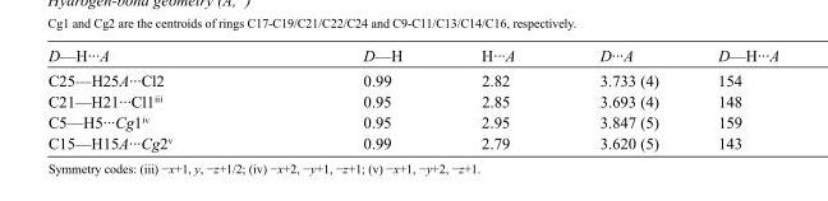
<table><tbody><tr><td>D—H···A</td><td>D—H</td><td>H···A</td><td>D···A</td><td>D—H···A</td></tr><tr><td>C25—H25A···Cl2</td><td>0.99</td><td>2.82</td><td>3.733 (4)</td><td>154</td></tr><tr><td>C21—H21···Cl1<sup>iii</sup></td><td>0.95</td><td>2.85</td><td>3.693 (4)</td><td>148</td></tr><tr><td>C5—H5···Cg1<sup>iv</sup></td><td>0.95</td><td>2.95</td><td>3.847 (5)</td><td>159</td></tr><tr><td>C15—H15A···Cg2<sup>v</sup></td><td>0.99</td><td>2.79</td><td>3.620 (5)</td><td>143</td></tr></tbody></table>